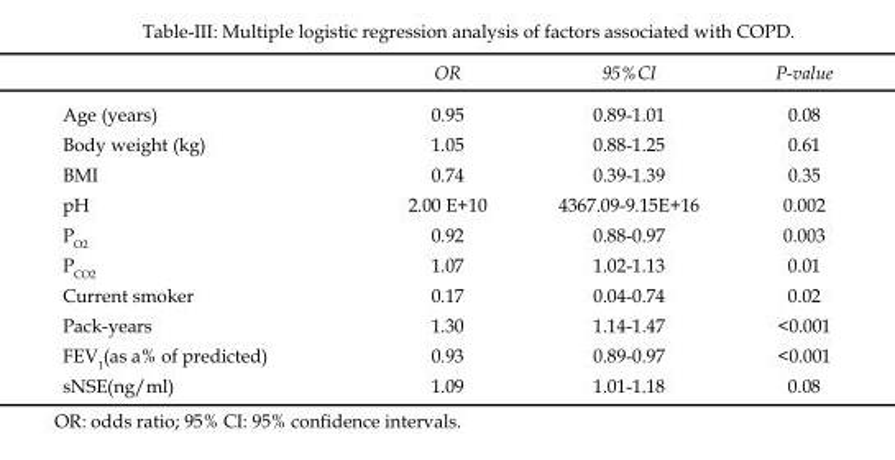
<table><thead><tr><td></td><td>OR</td><td>95%CI</td><td>P-value</td></tr></thead><tbody><tr><td>Age (years)</td><td>0.95</td><td>0.89-1.01</td><td>0.08</td></tr><tr><td>Body weight (kg)</td><td>1.05</td><td>0.88-1.25</td><td>0.61</td></tr><tr><td>BMI</td><td>0.74</td><td>0.39-1.39</td><td>0.35</td></tr><tr><td>pH</td><td>2.00 E+10</td><td>4367.09-9.15E+16</td><td>0.002</td></tr><tr><td>P<sub>O2</sub></td><td>0.92</td><td>0.88-0.97</td><td>0.003</td></tr><tr><td>P<sub>CO2</sub></td><td>1.07</td><td>1.02-1.13</td><td>0.01</td></tr><tr><td>Current smoker</td><td>0.17</td><td>0.04-0.74</td><td>0.02</td></tr><tr><td>Pack-years</td><td>1.30</td><td>1.14-1.47</td><td>&lt;0.001</td></tr><tr><td>FEV<sub>1</sub>(as a% of predicted)</td><td>0.93</td><td>0.89-0.97</td><td>&lt;0.001</td></tr><tr><td>sNSE(ng/ml)</td><td>1.09</td><td>1.01-1.18</td><td>0.08</td></tr></tbody></table>